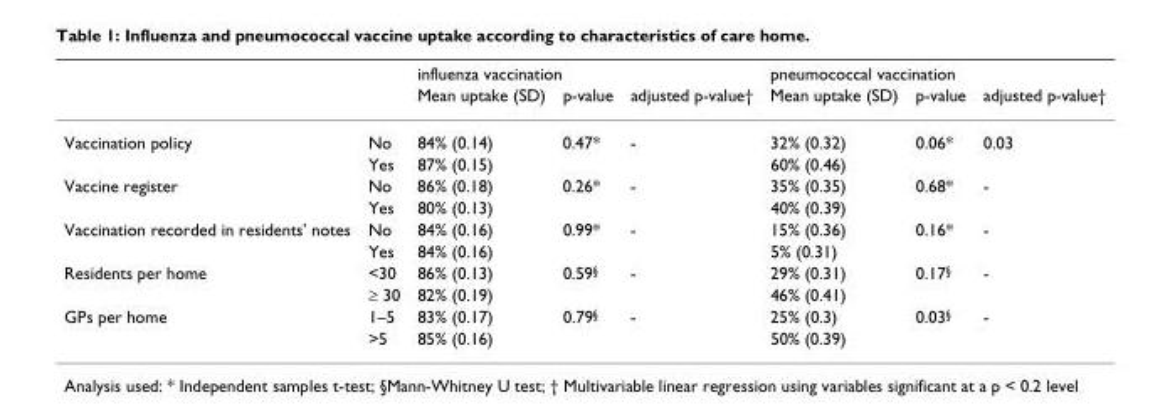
<table><thead><tr><td rowspan="2"></td><td rowspan="2"></td><td colspan="3">influenza vaccination</td><td colspan="3">pneumococcal vaccination</td></tr><tr><td>Mean uptake (SD)</td><td>p-value</td><td>adjusted p-value†</td><td>Mean uptake (SD)</td><td>p-value</td><td>adjusted p-value†</td></tr></thead><tbody><tr><td rowspan="2">Vaccination policy</td><td>No</td><td>84% (0.14)</td><td>0.47*</td><td>-</td><td>32% (0.32)</td><td>0.06*</td><td>0.03</td></tr><tr><td>Yes</td><td>87% (0.15)</td><td></td><td></td><td>60% (0.46)</td><td></td><td></td></tr><tr><td rowspan="2">Vaccine register</td><td>No</td><td>86% (0.18)</td><td>0.26*</td><td>-</td><td>35% (0.35)</td><td>0.68*</td><td>-</td></tr><tr><td>Yes</td><td>80% (0.13)</td><td></td><td></td><td>40% (0.39)</td><td></td><td></td></tr><tr><td rowspan="2">Vaccination recorded in residents&#x27; notes</td><td>No</td><td>84% (0.16)</td><td>0.99*</td><td>-</td><td>15% (0.36)</td><td>0.16*</td><td>-</td></tr><tr><td>Yes</td><td>84% (0.16)</td><td></td><td></td><td>5% (0.31)</td><td></td><td></td></tr><tr><td rowspan="2">Residents per home</td><td>&lt;30</td><td>86% (0.13)</td><td>0.59<sup>§</sup></td><td>-</td><td>29% (0.31)</td><td>0.17<sup>§</sup></td><td>-</td></tr><tr><td>≥ 30</td><td>82% (0.19)</td><td></td><td></td><td>46% (0.41)</td><td></td><td></td></tr><tr><td rowspan="2">GPs per home</td><td>1–5</td><td>83% (0.17)</td><td>0.79<sup>§</sup></td><td>-</td><td>25% (0.3)</td><td>0.03<sup>§</sup></td><td>-</td></tr><tr><td>&gt;5</td><td>85% (0.16)</td><td></td><td></td><td>50% (0.39)</td><td></td><td></td></tr></tbody></table>